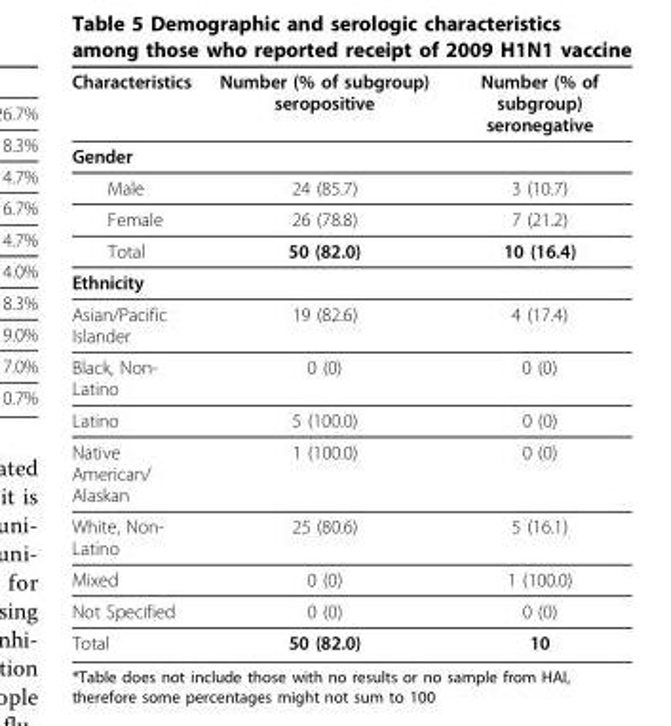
<table><thead><tr><td>Characteristics</td><td>Number (% of subgroup) seropositive</td><td>Number (% of subgroup) seronegative</td></tr></thead><tbody><tr><td colspan="3">Gender</td></tr><tr><td>Male</td><td>24 (85.7)</td><td>3 (10.7)</td></tr><tr><td>Female</td><td>26 (78.8)</td><td>7 (21.2)</td></tr><tr><td>Total</td><td>50 (82.0)</td><td>10 (16.4)</td></tr><tr><td colspan="3">Ethnicity</td></tr><tr><td>Asian/Pacific Islander</td><td>19 (82.6)</td><td>4 (17.4)</td></tr><tr><td>Black, Non- Latino</td><td>0 (0)</td><td>0 (0)</td></tr><tr><td>Latino</td><td>5 (100.0)</td><td>0 (0)</td></tr><tr><td>Native American/ Alaskan</td><td>1 (100.0)</td><td>0 (0)</td></tr><tr><td>White, Non- Latino</td><td>25 (80.6)</td><td>5 (16.1)</td></tr><tr><td>Mixed</td><td>0 (0)</td><td>1 (100.0)</td></tr><tr><td>Not Specified</td><td>0 (0)</td><td>0 (0)</td></tr><tr><td>Total</td><td>50 (82.0)</td><td>10</td></tr></tbody></table>